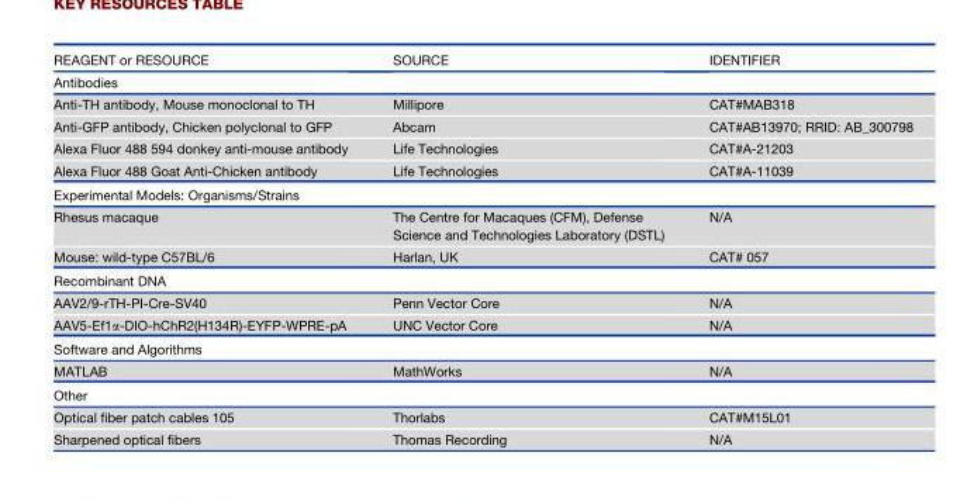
<table><thead><tr><td>REAGENT or RESOURCE</td><td>SOURCE</td><td>IDENTIFIER</td></tr></thead><tbody><tr><td colspan="3">Antibodies</td></tr><tr><td>Anti-TH antibody, Mouse monoclonal to TH</td><td>Millipore</td><td>CAT#MAB318</td></tr><tr><td>Anti-GFP antibody, Chicken polyclonal to GFP</td><td>Abcam</td><td>CAT#AB13970; RRID: AB_300798</td></tr><tr><td>Alexa Fluor 488 594 donkey anti-mouse antibody</td><td>Life Technologies</td><td>CAT#A-21203</td></tr><tr><td>Alexa Fluor 488 Goat Anti-Chicken antibody</td><td>Life Technologies</td><td>CAT#A-11039</td></tr><tr><td colspan="3">Experimental Models: Organisms/Strains</td></tr><tr><td>Rhesus macaque</td><td>The Centre for Macaques (CFM), Defense Science and Technologies Laboratory (DSTL)</td><td>N/A</td></tr><tr><td>Mouse: wild-type C57BL/6</td><td>Harlan, UK</td><td>CAT# 057</td></tr><tr><td colspan="3">Recombinant DNA</td></tr><tr><td>AAV2/9-rTH-PI-Cre-SV40</td><td>Penn Vector Core</td><td>N/A</td></tr><tr><td>AAV5-Ef1α-DIO-hChR2(H134R)-EYFP-WPRE-pA</td><td>UNC Vector Core</td><td>N/A</td></tr><tr><td colspan="3">Software and Algorithms</td></tr><tr><td>MATLAB</td><td>MathWorks</td><td>N/A</td></tr><tr><td colspan="3">Other</td></tr><tr><td>Optical fiber patch cables 105</td><td>Thorlabs</td><td>CAT#M15L01</td></tr><tr><td>Sharpened optical fibers</td><td>Thomas Recording</td><td>N/A</td></tr></tbody></table>